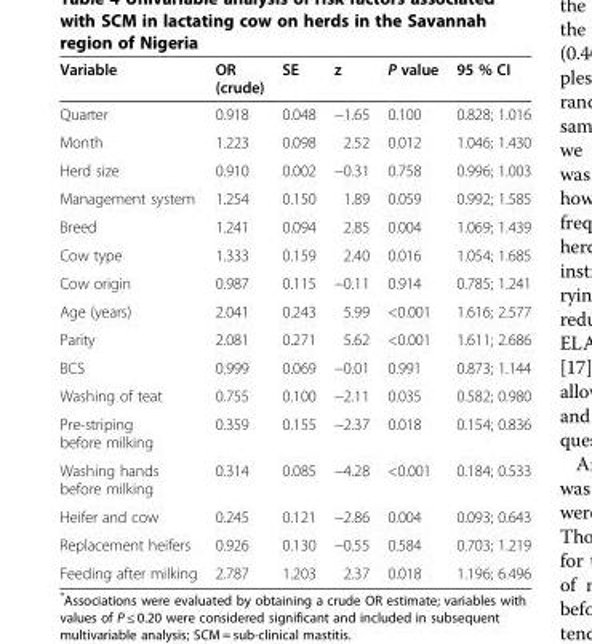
<table><thead><tr><td>Variable</td><td>OR (crude)</td><td>SE</td><td>z</td><td>P value</td><td>95 % CI</td></tr></thead><tbody><tr><td>Quarter</td><td>0.918</td><td>0.048</td><td>−1.65</td><td>0.100</td><td>0.828; 1.016</td></tr><tr><td>Month</td><td>1.223</td><td>0.098</td><td>2.52</td><td>0.012</td><td>1.046; 1.430</td></tr><tr><td>Herd size</td><td>0.910</td><td>0.002</td><td>−0.31</td><td>0.758</td><td>0.996; 1.003</td></tr><tr><td>Management system</td><td>1.254</td><td>0.150</td><td>1.89</td><td>0.059</td><td>0.992; 1.585</td></tr><tr><td>Breed</td><td>1.241</td><td>0.094</td><td>2.85</td><td>0.004</td><td>1.069; 1.439</td></tr><tr><td>Cow type</td><td>1.333</td><td>0.159</td><td>2.40</td><td>0.016</td><td>1.054; 1.685</td></tr><tr><td>Cow origin</td><td>0.987</td><td>0.115</td><td>−0.11</td><td>0.914</td><td>0.785; 1.241</td></tr><tr><td>Age (years)</td><td>2.041</td><td>0.243</td><td>5.99</td><td>&lt;0.001</td><td>1.616; 2.577</td></tr><tr><td>Parity</td><td>2.081</td><td>0.271</td><td>5.62</td><td>&lt;0.001</td><td>1.611; 2.686</td></tr><tr><td>BCS</td><td>0.999</td><td>0.069</td><td>−0.01</td><td>0.991</td><td>0.873; 1.144</td></tr><tr><td>Washing of teat</td><td>0.755</td><td>0.100</td><td>−2.11</td><td>0.035</td><td>0.582; 0.980</td></tr><tr><td>Pre-striping before milking</td><td>0.359</td><td>0.155</td><td>−2.37</td><td>0.018</td><td>0.154; 0.836</td></tr><tr><td>Washing hands before milking</td><td>0.314</td><td>0.085</td><td>−4.28</td><td>&lt;0.001</td><td>0.184; 0.533</td></tr><tr><td>Heifer and cow</td><td>0.245</td><td>0.121</td><td>−2.86</td><td>0.004</td><td>0.093; 0.643</td></tr><tr><td>Replacement heifers</td><td>0.926</td><td>0.130</td><td>−0.55</td><td>0.584</td><td>0.703; 1.219</td></tr><tr><td>Feeding after milking</td><td>2.787</td><td>1.203</td><td>2.37</td><td>0.018</td><td>1.196; 6.496</td></tr></tbody></table>